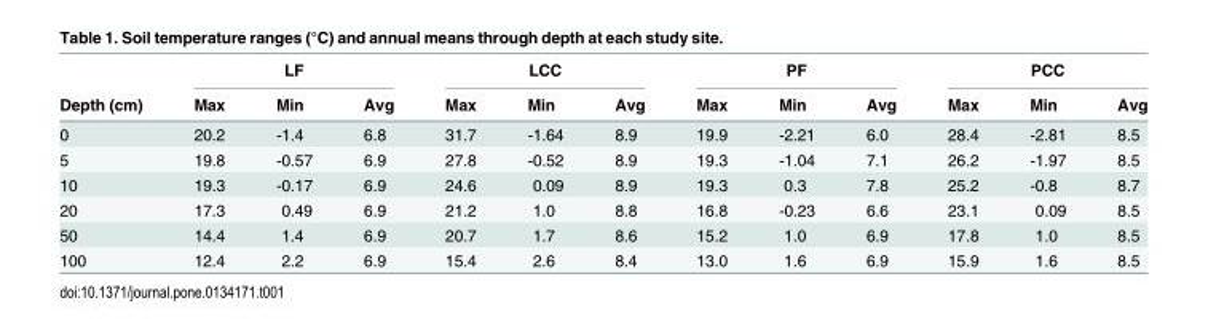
<table><thead><tr><td rowspan="2">Depth (cm)</td><td colspan="3">LF</td><td colspan="3">LCC</td><td colspan="3">PF</td><td colspan="3">PCC</td></tr><tr><td>Max</td><td>Min</td><td>Avg</td><td>Max</td><td>Min</td><td>Avg</td><td>Max</td><td>Min</td><td>Avg</td><td>Max</td><td>Min</td><td>Avg</td></tr></thead><tbody><tr><td>0</td><td>20.2</td><td>-1.4</td><td>6.8</td><td>31.7</td><td>-1.64</td><td>8.9</td><td>19.9</td><td>-2.21</td><td>6.0</td><td>28.4</td><td>-2.81</td><td>8.5</td></tr><tr><td>5</td><td>19.8</td><td>-0.57</td><td>6.9</td><td>27.8</td><td>-0.52</td><td>8.9</td><td>19.3</td><td>-1.04</td><td>7.1</td><td>26.2</td><td>-1.97</td><td>8.5</td></tr><tr><td>10</td><td>19.3</td><td>-0.17</td><td>6.9</td><td>24.6</td><td>0.09</td><td>8.9</td><td>19.3</td><td>0.3</td><td>7.8</td><td>25.2</td><td>-0.8</td><td>8.7</td></tr><tr><td>20</td><td>17.3</td><td>0.49</td><td>6.9</td><td>21.2</td><td>1.0</td><td>8.8</td><td>16.8</td><td>-0.23</td><td>6.6</td><td>23.1</td><td>0.09</td><td>8.5</td></tr><tr><td>50</td><td>14.4</td><td>1.4</td><td>6.9</td><td>20.7</td><td>1.7</td><td>8.6</td><td>15.2</td><td>1.0</td><td>6.9</td><td>17.8</td><td>1.0</td><td>8.5</td></tr><tr><td>100</td><td>12.4</td><td>2.2</td><td>6.9</td><td>15.4</td><td>2.6</td><td>8.4</td><td>13.0</td><td>1.6</td><td>6.9</td><td>15.9</td><td>1.6</td><td>8.5</td></tr></tbody></table>